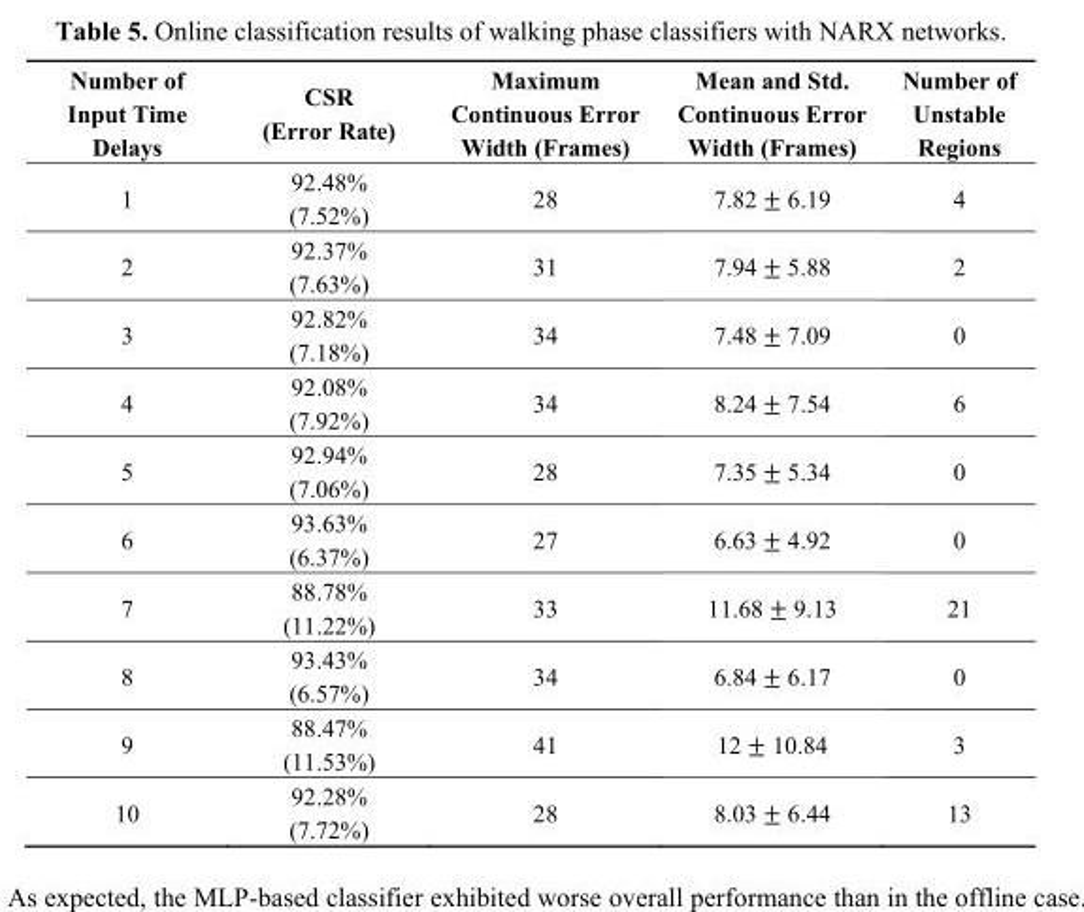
<table><thead><tr><td>Number of Input Time Delays</td><td>CSR (Error Rate)</td><td>Maximum Continuous Error Width (Frames)</td><td>Mean and Std. Continuous Error Width (Frames)</td><td>Number of Unstable Regions</td></tr></thead><tbody><tr><td>1</td><td>92.48% (7.52%)</td><td>28</td><td>7.82 ± 6.19</td><td>4</td></tr><tr><td>2</td><td>92.37% (7.63%)</td><td>31</td><td>7.94 ± 5.88</td><td>2</td></tr><tr><td>3</td><td>92.82% (7.18%)</td><td>34</td><td>7.48 ± 7.09</td><td>0</td></tr><tr><td>4</td><td>92.08% (7.92%)</td><td>34</td><td>8.24 ± 7.54</td><td>6</td></tr><tr><td>5</td><td>92.94% (7.06%)</td><td>28</td><td>7.35 ± 5.34</td><td>0</td></tr><tr><td>6</td><td>93.63% (6.37%)</td><td>27</td><td>6.63 ± 4.92</td><td>0</td></tr><tr><td>7</td><td>88.78% (11.22%)</td><td>33</td><td>11.68 ± 9.13</td><td>21</td></tr><tr><td>8</td><td>93.43% (6.57%)</td><td>34</td><td>6.84 ± 6.17</td><td>0</td></tr><tr><td>9</td><td>88.47% (11.53%)</td><td>41</td><td>12 ± 10.84</td><td>3</td></tr><tr><td>10</td><td>92.28% (7.72%)</td><td>28</td><td>8.03 ± 6.44</td><td>13</td></tr></tbody></table>